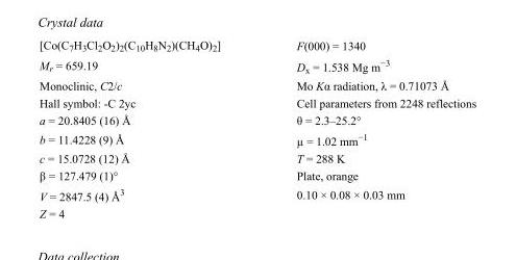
<table><tbody><tr><td>[Co(C<sub>7</sub>H<sub>3</sub>Cl<sub>2</sub>O<sub>2</sub>)<sub>2</sub>(C<sub>10</sub>H<sub>8</sub>N<sub>2</sub>)(CH<sub>4</sub>O)<sub>2</sub>]</td><td>F(000) = 1340</td></tr><tr><td>M<sub>r</sub> = 659.19</td><td>D<sub>x</sub> = 1.538 Mg m<sup>−3</sup></td></tr><tr><td>Monoclinic, C2/c</td><td>Mo Kα radiation, λ = 0.71073 Å</td></tr><tr><td>Hall symbol: -C 2yc</td><td>Cell parameters from 2248 reflections</td></tr><tr><td>a = 20.8405 (16) Å</td><td>θ = 2.3–25.2°</td></tr><tr><td>b = 11.4228 (9) Å</td><td>µ = 1.02 mm<sup>−1</sup></td></tr><tr><td>c = 15.0728 (12) Å</td><td>T = 288 K</td></tr><tr><td>β = 127.479 (1)°</td><td>Plate, orange</td></tr><tr><td>V = 2847.5 (4) Å<sup>3</sup></td><td>0.10 × 0.08 × 0.03 mm</td></tr><tr><td>Z = 4</td><td></td></tr></tbody></table>